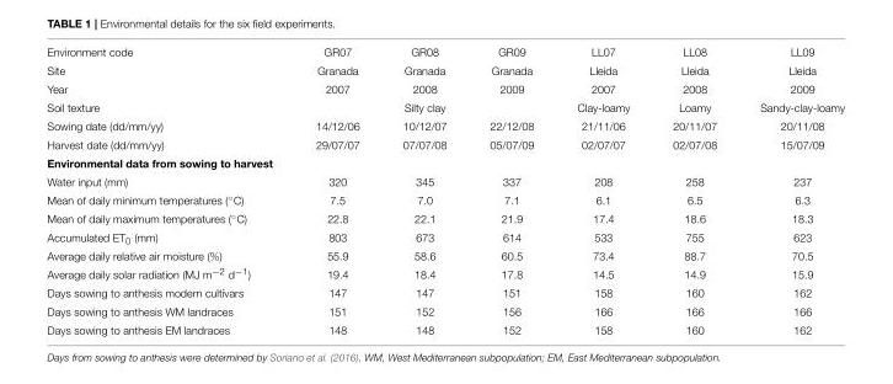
<table><tbody><tr><td>Environment code</td><td>GR07</td><td>GR08</td><td>GR09</td><td>LL07</td><td>LL08</td><td>LL09</td></tr><tr><td>Site</td><td>Granada</td><td>Granada</td><td>Granada</td><td>Lleida</td><td>Lleida</td><td>Lleida</td></tr><tr><td>Year</td><td>2007</td><td>2008</td><td>2009</td><td>2007</td><td>2008</td><td>2009</td></tr><tr><td>Soil texture</td><td></td><td>Silty clay</td><td></td><td>Clay-loamy</td><td>Loamy</td><td>Sandy-clay-loamy</td></tr><tr><td>Sowing date (dd/mm/yy)</td><td>14/12/06</td><td>10/12/07</td><td>22/12/08</td><td>21/11/06</td><td>20/11/07</td><td>20/11/08</td></tr><tr><td>Harvest date (dd/mm/yy)</td><td>29/07/07</td><td>07/07/08</td><td>05/07/09</td><td>02/07/07</td><td>02/07/08</td><td>15/07/09</td></tr><tr><td colspan="7">Environmental data from sowing to harvest</td></tr><tr><td>Water input (mm)</td><td>320</td><td>345</td><td>337</td><td>208</td><td>258</td><td>237</td></tr><tr><td>Mean of daily minimum temperatures (◦C)</td><td>7.5</td><td>7.0</td><td>7.1</td><td>6.1</td><td>6.5</td><td>6.3</td></tr><tr><td>Mean of daily maximum temperatures (◦C)</td><td>22.8</td><td>22.1</td><td>21.9</td><td>17.4</td><td>18.6</td><td>18.3</td></tr><tr><td>Accumulated ET<sub>0</sub> (mm)</td><td>803</td><td>673</td><td>614</td><td>533</td><td>755</td><td>623</td></tr><tr><td>Average daily relative air moisture (%)</td><td>55.9</td><td>58.6</td><td>60.5</td><td>73.4</td><td>88.7</td><td>70.5</td></tr><tr><td>Average daily solar radiation (MJ m<sup>−2</sup> d<sup>−1</sup>)</td><td>19.4</td><td>18.4</td><td>17.8</td><td>14.5</td><td>14.9</td><td>15.9</td></tr><tr><td>Days sowing to anthesis modern cultivars</td><td>147</td><td>147</td><td>151</td><td>158</td><td>160</td><td>162</td></tr><tr><td>Days sowing to anthesis WM landraces</td><td>151</td><td>152</td><td>156</td><td>166</td><td>166</td><td>166</td></tr><tr><td>Days sowing to anthesis EM landraces</td><td>148</td><td>148</td><td>152</td><td>158</td><td>160</td><td>162</td></tr></tbody></table>